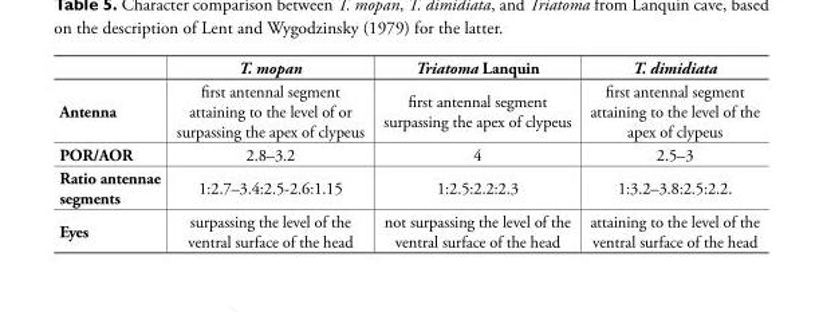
<table><thead><tr><td></td><td>T. mopan</td><td>Triatoma Lanquin</td><td>T. dimidiata</td></tr></thead><tbody><tr><td>Antenna</td><td>first antennal segment attaining to the level of or surpassing the apex of clypeus</td><td>first antennal segment surpassing the apex of clypeus</td><td>first antennal segment attaining to the level of the apex of clypeus</td></tr><tr><td>POR/AOR</td><td>2.8–3.2</td><td>4</td><td>2.5–3</td></tr><tr><td>Ratio antennae segments</td><td>1:2.7–3.4:2.5-2.6:1.15</td><td>1:2.5:2.2:2.3</td><td>1:3.2–3.8:2.5:2.2.</td></tr><tr><td>Eyes</td><td>surpassing the level of the ventral surface of the head</td><td>not surpassing the level of the ventral surface of the head</td><td>attaining to the level of the ventral surface of the head</td></tr></tbody></table>